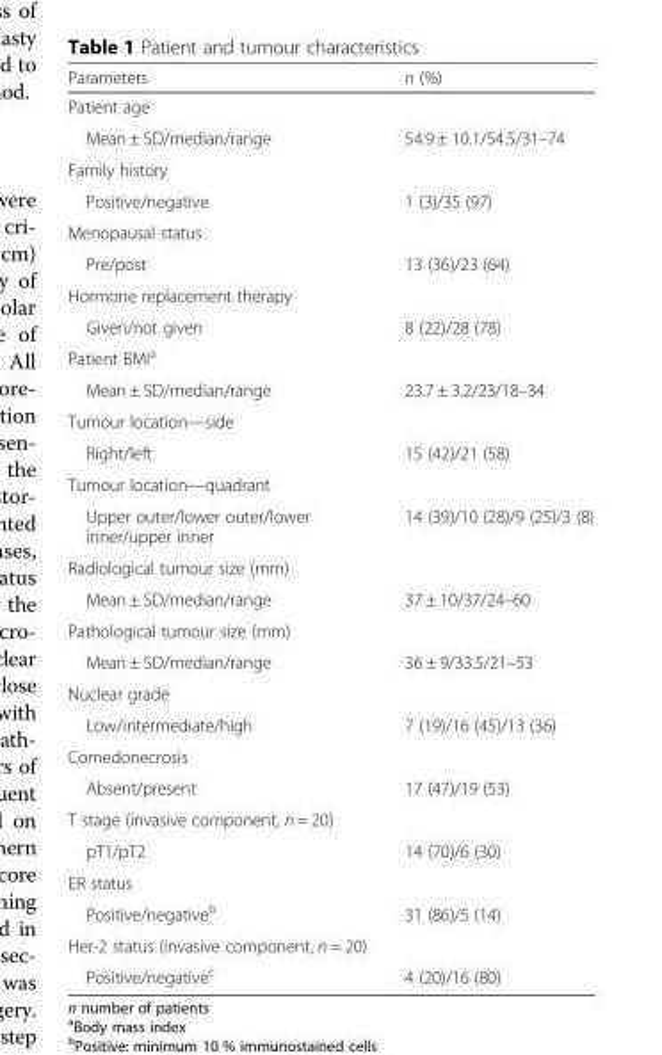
<table><thead><tr><td>Parameters</td><td>n (%)</td></tr></thead><tbody><tr><td colspan="2">Patient age</td></tr><tr><td>Mean ± SD/median/range</td><td>54.9 ± 10.1/54.5/31–74</td></tr><tr><td colspan="2">Family history</td></tr><tr><td>Positive/negative</td><td>1 (3)/35 (97)</td></tr><tr><td colspan="2">Menopausal status</td></tr><tr><td>Pre/post</td><td>13 (36)/23 (64)</td></tr><tr><td colspan="2">Hormone replacement therapy</td></tr><tr><td>Given/not given</td><td>8 (22)/28 (78)</td></tr><tr><td colspan="2">Patient BMI<sup>a</sup></td></tr><tr><td>Mean ± SD/median/range</td><td>23.7 ± 3.2/23/18–34</td></tr><tr><td colspan="2">Tumour location—side</td></tr><tr><td>Right/left</td><td>15 (42)/21 (58)</td></tr><tr><td colspan="2">Tumour location—quadrant</td></tr><tr><td>Upper outer/lower outer/lower inner/upper inner</td><td>14 (39)/10 (28)/9 (25)/3 (8)</td></tr><tr><td colspan="2">Radiological tumour size (mm)</td></tr><tr><td>Mean ± SD/median/range</td><td>37 ± 10/37/24–60</td></tr><tr><td colspan="2">Pathological tumour size (mm)</td></tr><tr><td>Mean ± SD/median/range</td><td>36 ± 9/33.5/21–53</td></tr><tr><td colspan="2">Nuclear grade</td></tr><tr><td>Low/intermediate/high</td><td>7 (19)/16 (45)/13 (36)</td></tr><tr><td colspan="2">Comedonecrosis</td></tr><tr><td>Absent/present</td><td>17 (47)/19 (53)</td></tr><tr><td colspan="2">T stage (invasive component, n = 20)</td></tr><tr><td>pT1/pT2</td><td>14 (70)/6 (30)</td></tr><tr><td colspan="2">ER status</td></tr><tr><td>Positive/negative<sup>b</sup></td><td>31 (86)/5 (14)</td></tr><tr><td colspan="2">Her-2 status (invasive component, n = 20)</td></tr><tr><td>Positive/negative<sup>c</sup></td><td>4 (20)/16 (80)</td></tr></tbody></table>